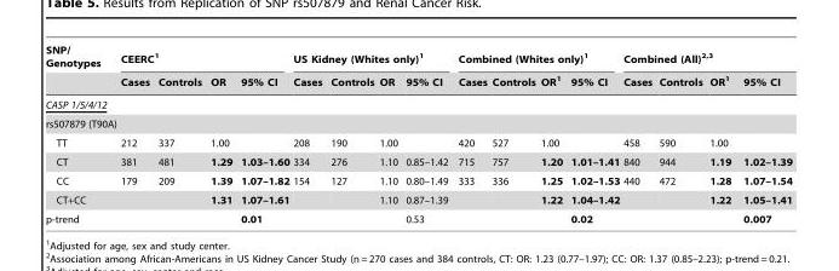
<table><thead><tr><td rowspan="2">SNP/ Genotypes</td><td colspan="4">CEERC<sup>1</sup></td><td colspan="4">US Kidney (Whites only)<sup>1</sup></td><td colspan="4">Combined (Whites only)<sup>1</sup></td><td colspan="4">Combined (All)<sup>2,</sup>3</td></tr><tr><td>Cases</td><td>Controls</td><td>OR</td><td>95% CI</td><td>Cases</td><td>Controls</td><td>OR</td><td>95% CI</td><td>Cases</td><td>Controls</td><td>OR<sup>1</sup></td><td>95% CI</td><td>Cases</td><td>Controls</td><td>OR<sup>1</sup></td><td>95% CI</td></tr></thead><tbody><tr><td colspan="17">CASP 1/5/4/12</td></tr><tr><td colspan="17">rs507879 (T90A)</td></tr><tr><td>TT</td><td>212</td><td>337</td><td>1.00</td><td></td><td>208</td><td>190</td><td>1.00</td><td></td><td>420</td><td>527</td><td>1.00</td><td></td><td>458</td><td>590</td><td>1.00</td><td></td></tr><tr><td>CT</td><td>381</td><td>481</td><td>1.29</td><td>1.03–1.60</td><td>334</td><td>276</td><td>1.10</td><td>0.85–1.42</td><td>715</td><td>757</td><td>1.20</td><td>1.01–1.41</td><td>840</td><td>944</td><td>1.19</td><td>1.02–1.39</td></tr><tr><td>CC</td><td>179</td><td>209</td><td>1.39</td><td>1.07–1.82</td><td>154</td><td>127</td><td>1.10</td><td>0.80–1.49</td><td>333</td><td>336</td><td>1.25</td><td>1.02–1.53</td><td>440</td><td>472</td><td>1.28</td><td>1.07–1.54</td></tr><tr><td>CT+CC</td><td></td><td></td><td>1.31</td><td>1.07–1.61</td><td></td><td></td><td>1.10</td><td>0.87–1.39</td><td></td><td></td><td>1.22</td><td>1.04–1.42</td><td></td><td></td><td>1.22</td><td>1.05–1.41</td></tr><tr><td>p-trend</td><td></td><td></td><td></td><td>0.01</td><td></td><td></td><td></td><td>0.53</td><td></td><td></td><td></td><td>0.02</td><td></td><td></td><td></td><td>0.007</td></tr></tbody></table>